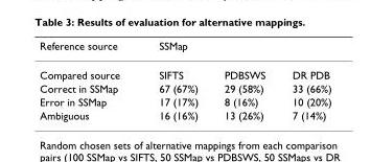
<table><thead><tr><td>Reference source</td><td>SSMap</td><td></td><td></td></tr></thead><tbody><tr><td>Compared source</td><td>SIFTS</td><td>PDBSWS</td><td>DR PDB</td></tr><tr><td>Correct in SSMap</td><td>67 (67%)</td><td>29 (58%)</td><td>33 (66%)</td></tr><tr><td>Error in SSMap</td><td>17 (17%)</td><td>8 (16%)</td><td>10 (20%)</td></tr><tr><td>Ambiguous</td><td>16 (16%)</td><td>13 (26%)</td><td>7 (14%)</td></tr></tbody></table>